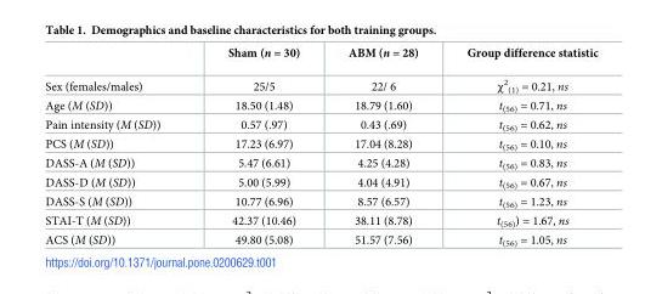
<table><thead><tr><td></td><td>Sham (n = 30)</td><td>ABM (n = 28)</td><td>Group difference statistic</td></tr></thead><tbody><tr><td>Sex (females/males)</td><td>25/5</td><td>22/ 6</td><td>χ<sup>2</sup> <sub>(1)</sub> = 0.21, ns</td></tr><tr><td>Age (M (SD))</td><td>18.50 (1.48)</td><td>18.79 (1.60)</td><td>t<sub>(56)</sub> = 0.71, ns</td></tr><tr><td>Pain intensity (M (SD))</td><td>0.57 (.97)</td><td>0.43 (.69)</td><td>t<sub>(56)</sub> = 0.62, ns</td></tr><tr><td>PCS (M (SD))</td><td>17.23 (6.97)</td><td>17.04 (8.28)</td><td>t<sub>(56)</sub> = 0.10, ns</td></tr><tr><td>DASS-A (M (SD))</td><td>5.47 (6.61)</td><td>4.25 (4.28)</td><td>t<sub>(56)</sub> = 0.83, ns</td></tr><tr><td>DASS-D (M (SD))</td><td>5.00 (5.99)</td><td>4.04 (4.91)</td><td>t<sub>(56)</sub> = 0.67, ns</td></tr><tr><td>DASS-S (M (SD))</td><td>10.77 (6.96)</td><td>8.57 (6.57)</td><td>t<sub>(56)</sub> = 1.23, ns</td></tr><tr><td>STAI-T (M (SD))</td><td>42.37 (10.46)</td><td>38.11 (8.78)</td><td>t<sub>(56)</sub>) = 1.67, ns</td></tr><tr><td>ACS (M (SD))</td><td>49.80 (5.08)</td><td>51.57 (7.56)</td><td>t<sub>(56)</sub> = 1.05, ns</td></tr></tbody></table>